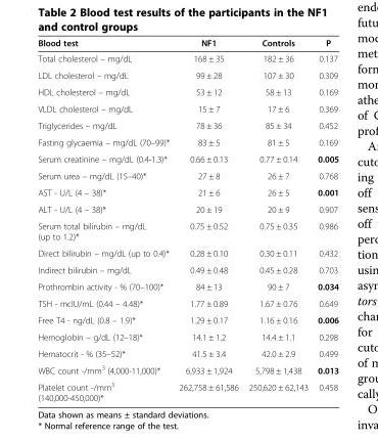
<table><thead><tr><td>Blood test</td><td>NF1</td><td>Controls</td><td>P</td></tr></thead><tbody><tr><td>Total cholesterol – mg/dL</td><td>168 ± 35</td><td>182 ± 36</td><td>0.137</td></tr><tr><td>LDL cholesterol – mg/dL</td><td>99 ± 28</td><td>107 ± 30</td><td>0.309</td></tr><tr><td>HDL cholesterol – mg/dL</td><td>53 ± 12</td><td>58 ± 13</td><td>0.169</td></tr><tr><td>VLDL cholesterol – mg/dL</td><td>15 ± 7</td><td>17 ± 6</td><td>0.369</td></tr><tr><td>Triglycerides – mg/dL</td><td>78 ± 36</td><td>85 ± 34</td><td>0.452</td></tr><tr><td>Fasting glycaemia – mg/dL (70–99)*</td><td>83 ± 5</td><td>81 ± 5</td><td>0.169</td></tr><tr><td>Serum creatinine – mg/dL (0.4-1.3)*</td><td>0.66 ± 0.13</td><td>0.77 ± 0.14</td><td>0.005</td></tr><tr><td>Serum urea – mg/dL (15–40)*</td><td>27 ± 8</td><td>26 ± 7</td><td>0.768</td></tr><tr><td>AST - U/L (4 – 38)*</td><td>21 ± 6</td><td>26 ± 5</td><td>0.001</td></tr><tr><td>ALT - U/L (4 – 38)*</td><td>20 ± 19</td><td>20 ± 9</td><td>0.907</td></tr><tr><td>Serum total bilirubin – mg/dL (up to 1.2)*</td><td>0.75 ± 0.52</td><td>0.75 ± 0.35</td><td>0.986</td></tr><tr><td>Direct bilirubin – mg/dL (up to 0.4)*</td><td>0.28 ± 0.10</td><td>0.30 ± 0.11</td><td>0.432</td></tr><tr><td>Indirect bilirubin – mg/dL</td><td>0.49 ± 0.48</td><td>0.45 ± 0.28</td><td>0.703</td></tr><tr><td>Prothrombin activity - % (70–100)*</td><td>84 ± 13</td><td>90 ± 7</td><td>0.034</td></tr><tr><td>TSH - mcIU/mL (0.44 – 4.48)*</td><td>1.77 ± 0.89</td><td>1.67 ± 0.76</td><td>0.649</td></tr><tr><td>Free T4 - ng/dL (0.8 – 1.9)*</td><td>1.29 ± 0.17</td><td>1.16 ± 0.16</td><td>0.006</td></tr><tr><td>Hemoglobin – g/dL (12–18)*</td><td>14.1 ± 1.2</td><td>14.4 ± 1.1</td><td>0.298</td></tr><tr><td>Hematocrit - % (35–52)*</td><td>41.5 ± 3.4</td><td>42.0 ± 2.9</td><td>0.499</td></tr><tr><td>WBC count -/mm<sup>3</sup> (4,000-11,000)*</td><td>6,933 ± 1,924</td><td>5,798 ± 1,438</td><td>0.013</td></tr><tr><td>Platelet count -/mm<sup>3</sup> (140,000-450,000)*</td><td>262,758 ± 61,586</td><td>250,620 ± 62,143</td><td>0.458</td></tr></tbody></table>